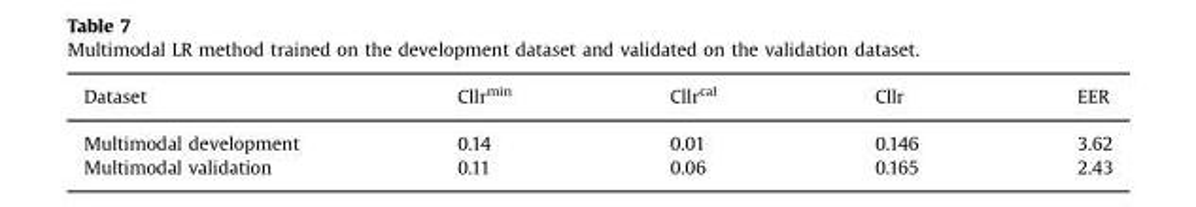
<table><thead><tr><td>Dataset</td><td>Cllr<sup>min</sup></td><td>Cllr<sup>cal</sup></td><td>Cllr</td><td>EER</td></tr></thead><tbody><tr><td>Multimodal development</td><td>0.14</td><td>0.01</td><td>0.146</td><td>3.62</td></tr><tr><td>Multimodal validation</td><td>0.11</td><td>0.06</td><td>0.165</td><td>2.43</td></tr></tbody></table>